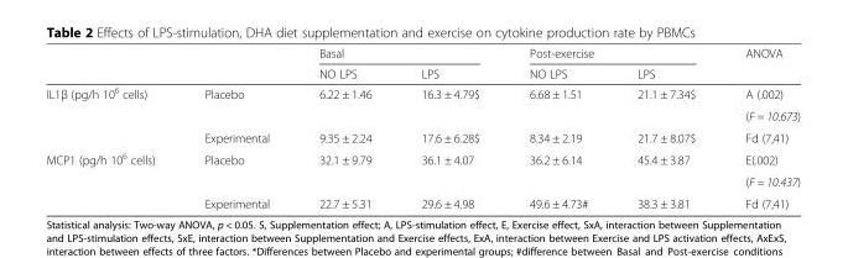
<table><thead><tr><td rowspan="2"></td><td rowspan="2"></td><td colspan="2">Basal</td><td colspan="2">Post-exercise</td><td rowspan="2">ANOVA</td></tr><tr><td>NO LPS</td><td>LPS</td><td>NO LPS</td><td>LPS</td></tr></thead><tbody><tr><td rowspan="3">IL1β (pg/h 10<sup>6</sup> cells)</td><td rowspan="2">Placebo</td><td rowspan="2">6.22 ± 1.46</td><td rowspan="2">16.3 ± 4.79$</td><td rowspan="2">6.68 ± 1.51</td><td rowspan="2">21.1 ± 7.34$</td><td>A (.002)</td></tr><tr><td>(F = 10.673)</td></tr><tr><td>Experimental</td><td>9.35 ± 2.24</td><td>17.6 ± 6.28$</td><td>8.34 ± 2.19</td><td>21.7 ± 8.07$</td><td>Fd (7,41)</td></tr><tr><td rowspan="3">MCP1 (pg/h 10<sup>6</sup> cells)</td><td rowspan="2">Placebo</td><td rowspan="2">32.1 ± 9.79</td><td rowspan="2">36.1 ± 4.07</td><td rowspan="2">36.2 ± 6.14</td><td rowspan="2">45.4 ± 3.87</td><td>E(.002)</td></tr><tr><td>(F = 10.437)</td></tr><tr><td>Experimental</td><td>22.7 ± 5.31</td><td>29.6 ± 4.98</td><td>49.6 ± 4.73#</td><td>38.3 ± 3.81</td><td>Fd (7,41)</td></tr></tbody></table>